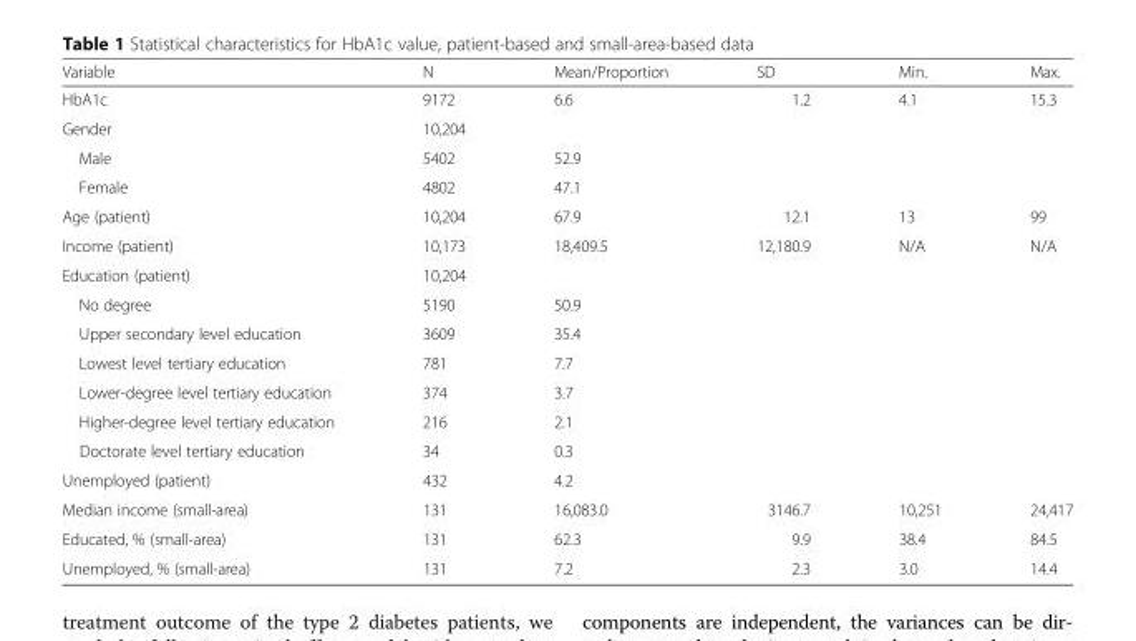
<table><thead><tr><td>Variable</td><td>N</td><td>Mean/Proportion</td><td>SD</td><td>Min.</td><td>Max.</td></tr></thead><tbody><tr><td>HbA1c</td><td>9172</td><td>6.6</td><td>1.2</td><td>4.1</td><td>15.3</td></tr><tr><td>Gender</td><td>10,204</td><td></td><td></td><td></td><td></td></tr><tr><td>Male</td><td>5402</td><td>52.9</td><td></td><td></td><td></td></tr><tr><td>Female</td><td>4802</td><td>47.1</td><td></td><td></td><td></td></tr><tr><td>Age (patient)</td><td>10,204</td><td>67.9</td><td>12.1</td><td>13</td><td>99</td></tr><tr><td>Income (patient)</td><td>10,173</td><td>18,409.5</td><td>12,180.9</td><td>N/A</td><td>N/A</td></tr><tr><td>Education (patient)</td><td>10,204</td><td></td><td></td><td></td><td></td></tr><tr><td>No degree</td><td>5190</td><td>50.9</td><td></td><td></td><td></td></tr><tr><td>Upper secondary level education</td><td>3609</td><td>35.4</td><td></td><td></td><td></td></tr><tr><td>Lowest level tertiary education</td><td>781</td><td>7.7</td><td></td><td></td><td></td></tr><tr><td>Lower-degree level tertiary education</td><td>374</td><td>3.7</td><td></td><td></td><td></td></tr><tr><td>Higher-degree level tertiary education</td><td>216</td><td>2.1</td><td></td><td></td><td></td></tr><tr><td>Doctorate level tertiary education</td><td>34</td><td>0.3</td><td></td><td></td><td></td></tr><tr><td>Unemployed (patient)</td><td>432</td><td>4.2</td><td></td><td></td><td></td></tr><tr><td>Median income (small-area)</td><td>131</td><td>16,083.0</td><td>3146.7</td><td>10,251</td><td>24,417</td></tr><tr><td>Educated, % (small-area)</td><td>131</td><td>62.3</td><td>9.9</td><td>38.4</td><td>84.5</td></tr><tr><td>Unemployed, % (small-area)</td><td>131</td><td>7.2</td><td>2.3</td><td>3.0</td><td>14.4</td></tr></tbody></table>